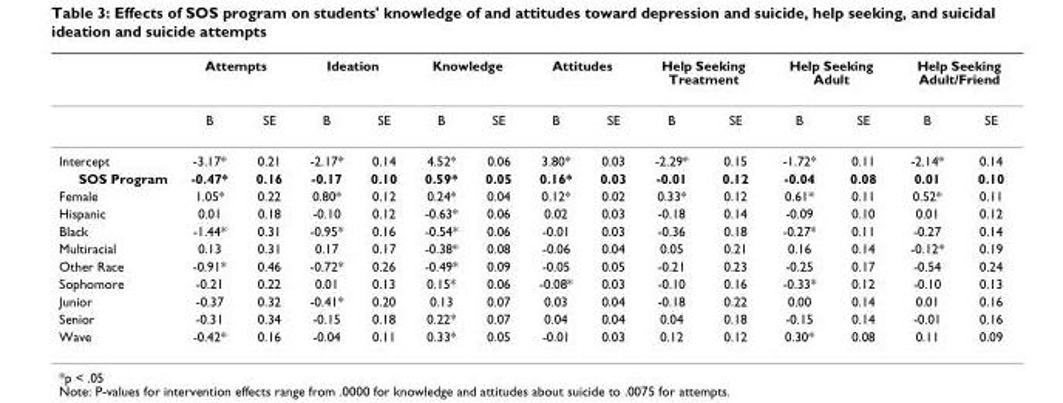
<table><thead><tr><td rowspan="2"></td><td colspan="2">Attempts</td><td colspan="2">Ideation</td><td colspan="2">Knowledge</td><td colspan="2">Attitudes</td><td colspan="2">Help Seeking Treatment</td><td colspan="2">Help Seeking Adult</td><td colspan="2">Help Seeking Adult/Friend</td></tr><tr><td>B</td><td>SE</td><td>B</td><td>SE</td><td>B</td><td>SE</td><td>B</td><td>SE</td><td>B</td><td>SE</td><td>B</td><td>SE</td><td>B</td><td>SE</td></tr></thead><tbody><tr><td>Intercept</td><td>-3.17*</td><td>0.21</td><td>-2.17*</td><td>0.14</td><td>4.52*</td><td>0.06</td><td>3.80*</td><td>0.03</td><td>-2.29*</td><td>0.15</td><td>-1.72*</td><td>0.11</td><td>-2.14*</td><td>0.14</td></tr><tr><td>SOS Program</td><td>-0.47*</td><td>0.16</td><td>-0.17</td><td>0.10</td><td>0.59*</td><td>0.05</td><td>0.16*</td><td>0.03</td><td>-0.01</td><td>0.12</td><td>-0.04</td><td>0.08</td><td>0.01</td><td>0.10</td></tr><tr><td>Female</td><td>1.05*</td><td>0.22</td><td>0.80*</td><td>0.12</td><td>0.24*</td><td>0.04</td><td>0.12*</td><td>0.02</td><td>0.33*</td><td>0.12</td><td>0.61*</td><td>0.11</td><td>0.52*</td><td>0.11</td></tr><tr><td>Hispanic</td><td>0.01</td><td>0.18</td><td>-0.10</td><td>0.12</td><td>-0.63*</td><td>0.06</td><td>0.02</td><td>0.03</td><td>-0.18</td><td>0.14</td><td>-0.09</td><td>0.10</td><td>0.01</td><td>0.12</td></tr><tr><td>Black</td><td>-1.44*</td><td>0.31</td><td>-0.95*</td><td>0.16</td><td>-0.54*</td><td>0.06</td><td>-0.01</td><td>0.03</td><td>-0.36</td><td>0.18</td><td>-0.27*</td><td>0.11</td><td>-0.27</td><td>0.14</td></tr><tr><td>Multiracial</td><td>0.13</td><td>0.31</td><td>0.17</td><td>0.17</td><td>-0.38*</td><td>0.08</td><td>-0.06</td><td>0.04</td><td>0.05</td><td>0.21</td><td>0.16</td><td>0.14</td><td>-0.12*</td><td>0.19</td></tr><tr><td>Other Race</td><td>-0.91*</td><td>0.46</td><td>-0.72*</td><td>0.26</td><td>-0.49*</td><td>0.09</td><td>-0.05</td><td>0.05</td><td>-0.21</td><td>0.23</td><td>-0.25</td><td>0.17</td><td>-0.54</td><td>0.24</td></tr><tr><td>Sophomore</td><td>-0.21</td><td>0.22</td><td>0.01</td><td>0.13</td><td>0.15*</td><td>0.06</td><td>-0.08*</td><td>0.03</td><td>-0.10</td><td>0.16</td><td>-0.33*</td><td>0.12</td><td>-0.10</td><td>0.13</td></tr><tr><td>Junior</td><td>-0.37</td><td>0.32</td><td>-0.41*</td><td>0.20</td><td>0.13</td><td>0.07</td><td>0.03</td><td>0.04</td><td>-0.18</td><td>0.22</td><td>0.00</td><td>0.14</td><td>0.01</td><td>0.16</td></tr><tr><td>Senior</td><td>-0.31</td><td>0.34</td><td>-0.15</td><td>0.18</td><td>0.22*</td><td>0.07</td><td>0.04</td><td>0.04</td><td>0.04</td><td>0.18</td><td>-0.15</td><td>0.14</td><td>-0.01</td><td>0.16</td></tr><tr><td>Wave</td><td>-0.42*</td><td>0.16</td><td>-0.04</td><td>0.11</td><td>0.33*</td><td>0.05</td><td>-0.01</td><td>0.03</td><td>0.12</td><td>0.12</td><td>0.30*</td><td>0.08</td><td>0.11</td><td>0.09</td></tr></tbody></table>